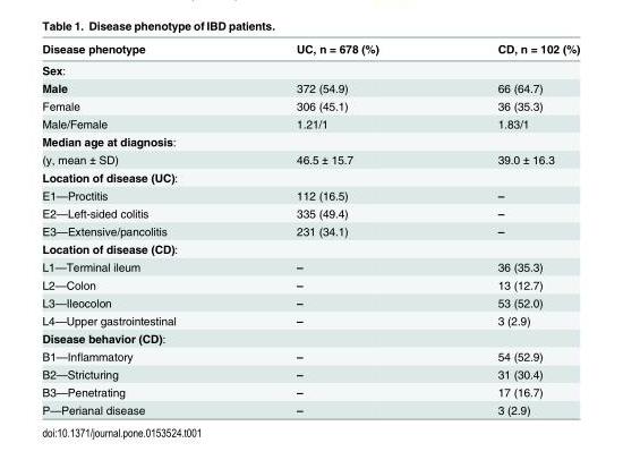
<table><thead><tr><td>Disease phenotype</td><td>UC, n = 678 (%)</td><td>CD, n = 102 (%)</td></tr></thead><tbody><tr><td colspan="3">Sex:</td></tr><tr><td>Male</td><td>372 (54.9)</td><td>66 (64.7)</td></tr><tr><td>Female</td><td>306 (45.1)</td><td>36 (35.3)</td></tr><tr><td>Male/Female</td><td>1.21/1</td><td>1.83/1</td></tr><tr><td colspan="3">Median age at diagnosis:</td></tr><tr><td>(y, mean ± SD)</td><td>46.5 ± 15.7</td><td>39.0 ± 16.3</td></tr><tr><td colspan="3">Location of disease (UC):</td></tr><tr><td>E1—Proctitis</td><td>112 (16.5)</td><td>–</td></tr><tr><td>E2—Left-sided colitis</td><td>335 (49.4)</td><td>–</td></tr><tr><td>E3—Extensive/pancolitis</td><td>231 (34.1)</td><td>–</td></tr><tr><td colspan="3">Location of disease (CD):</td></tr><tr><td>L1—Terminal ileum</td><td>–</td><td>36 (35.3)</td></tr><tr><td>L2—Colon</td><td>–</td><td>13 (12.7)</td></tr><tr><td>L3—Ileocolon</td><td>–</td><td>53 (52.0)</td></tr><tr><td>L4—Upper gastrointestinal</td><td>–</td><td>3 (2.9)</td></tr><tr><td colspan="3">Disease behavior (CD):</td></tr><tr><td>B1—Inflammatory</td><td>–</td><td>54 (52.9)</td></tr><tr><td>B2—Stricturing</td><td>–</td><td>31 (30.4)</td></tr><tr><td>B3—Penetrating</td><td>–</td><td>17 (16.7)</td></tr><tr><td>P—Perianal disease</td><td>–</td><td>3 (2.9)</td></tr></tbody></table>